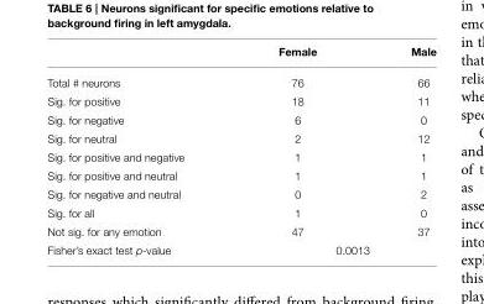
<table><thead><tr><td></td><td>Female</td><td>Male</td></tr></thead><tbody><tr><td>Total # neurons</td><td>76</td><td>66</td></tr><tr><td>Sig. for positive</td><td>18</td><td>11</td></tr><tr><td>Sig. for negative</td><td>6</td><td>0</td></tr><tr><td>Sig. for neutral</td><td>2</td><td>12</td></tr><tr><td>Sig. for positive and negative</td><td>1</td><td>1</td></tr><tr><td>Sig. for positive and neutral</td><td>1</td><td>1</td></tr><tr><td>Sig. for negative and neutral</td><td>0</td><td>2</td></tr><tr><td>Sig. for all</td><td>1</td><td>0</td></tr><tr><td>Not sig. for any emotion</td><td>47</td><td>37</td></tr><tr><td>Fisher’s exact test p-value</td><td colspan="2">0.0013</td></tr></tbody></table>